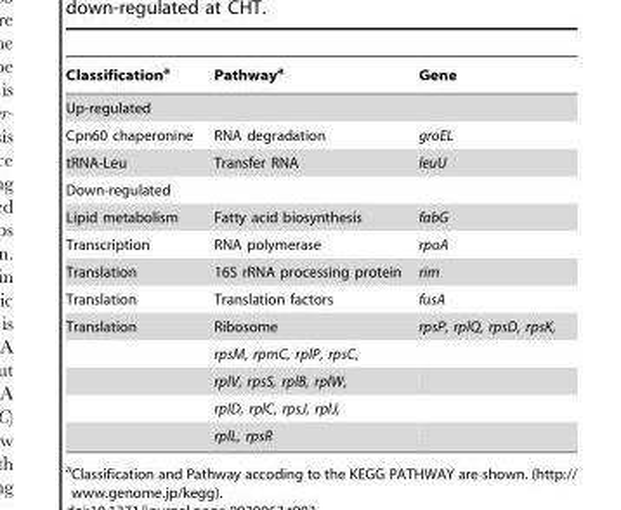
<table><thead><tr><td>Classification<sup>a</sup></td><td>Pathway<sup>a</sup></td><td>Gene</td></tr></thead><tbody><tr><td colspan="3">Up-regulated</td></tr><tr><td>Cpn60 chaperonine</td><td>RNA degradation</td><td>groEL</td></tr><tr><td>tRNA-Leu</td><td>Transfer RNA</td><td>leuU</td></tr><tr><td colspan="3">Down-regulated</td></tr><tr><td>Lipid metabolism</td><td>Fatty acid biosynthesis</td><td>fabG</td></tr><tr><td>Transcription</td><td>RNA polymerase</td><td>rpoA</td></tr><tr><td>Translation</td><td>16S rRNA processing protein</td><td>rim</td></tr><tr><td>Translation</td><td>Translation factors</td><td>fusA</td></tr><tr><td rowspan="5">Translation</td><td>Ribosome</td><td>rpsP, rplQ, rpsD, rpsK,</td></tr><tr><td>rpsM, rpmC, rplP, rpsC,</td><td></td></tr><tr><td>rplV, rpsS, rplB, rplW,</td><td></td></tr><tr><td>rplD, rplC, rpsJ, rplJ,</td><td></td></tr><tr><td>rplL, rpsR</td><td></td></tr></tbody></table>